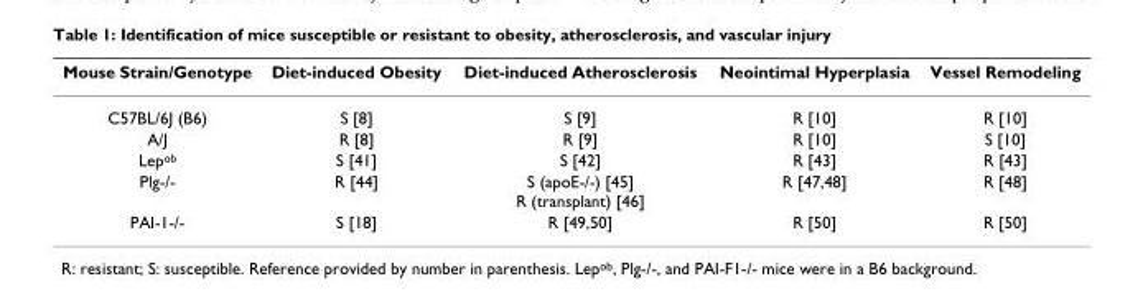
<table><thead><tr><td>Mouse Strain/Genotype</td><td>Diet-induced Obesity</td><td>Diet-induced Atherosclerosis</td><td>Neointimal Hyperplasia</td><td>Vessel Remodeling</td></tr></thead><tbody><tr><td>C57BL/6J (B6)</td><td>S [8]</td><td>S [9]</td><td>R [10]</td><td>R [10]</td></tr><tr><td>A/J</td><td>R [8]</td><td>R [9]</td><td>R [10]</td><td>S [10]</td></tr><tr><td>Lep<sup>ob</sup></td><td>S [41]</td><td>S [42]</td><td>R [43]</td><td>R [43]</td></tr><tr><td>Plg-/-</td><td>R [44]</td><td>S (apoE-/-) [45] R (transplant) [46]</td><td>R [47,48]</td><td>R [48]</td></tr><tr><td>PAI-1-/-</td><td>S [18]</td><td>R [49,50]</td><td>R [50]</td><td>R [50]</td></tr></tbody></table>